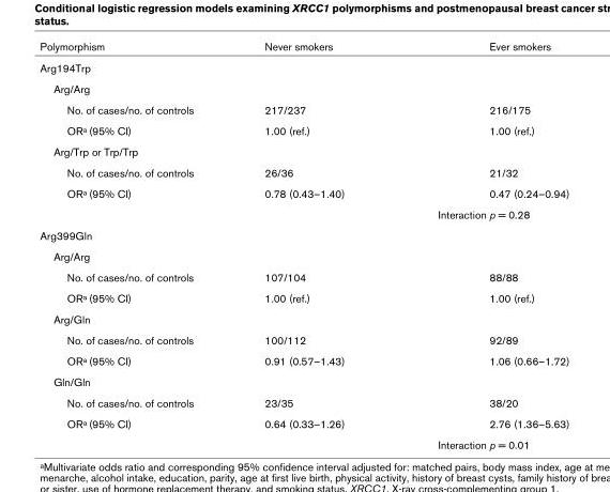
<table><thead><tr><td>Polymorphism</td><td>Never smokers</td><td>Ever smokers</td></tr></thead><tbody><tr><td colspan="3">Arg194Trp</td></tr><tr><td colspan="3">Arg/Arg</td></tr><tr><td>No. of cases/no. of controls</td><td>217/237</td><td>216/175</td></tr><tr><td>ORa (95% CI)</td><td>1.00 (ref.)</td><td>1.00 (ref.)</td></tr><tr><td colspan="3">Arg/Trp or Trp/Trp</td></tr><tr><td>No. of cases/no. of controls</td><td>26/36</td><td>21/32</td></tr><tr><td rowspan="2">ORa (95% CI)</td><td>0.78 (0.43–1.40)</td><td>0.47 (0.24–0.94)</td></tr><tr><td colspan="2">Interaction p = 0.28</td></tr><tr><td colspan="3">Arg399Gln</td></tr><tr><td colspan="3">Arg/Arg</td></tr><tr><td>No. of cases/no. of controls</td><td>107/104</td><td>88/88</td></tr><tr><td>ORa (95% CI)</td><td>1.00 (ref.)</td><td>1.00 (ref.)</td></tr><tr><td colspan="3">Arg/Gln</td></tr><tr><td>No. of cases/no. of controls</td><td>100/112</td><td>92/89</td></tr><tr><td>ORa (95% CI)</td><td>0.91 (0.57–1.43)</td><td>1.06 (0.66–1.72)</td></tr><tr><td colspan="3">Gln/Gln</td></tr><tr><td>No. of cases/no. of controls</td><td>23/35</td><td>38/20</td></tr><tr><td rowspan="2">ORa (95% CI)</td><td>0.64 (0.33–1.26)</td><td>2.76 (1.36–5.63)</td></tr><tr><td colspan="2">Interaction p = 0.01</td></tr></tbody></table>